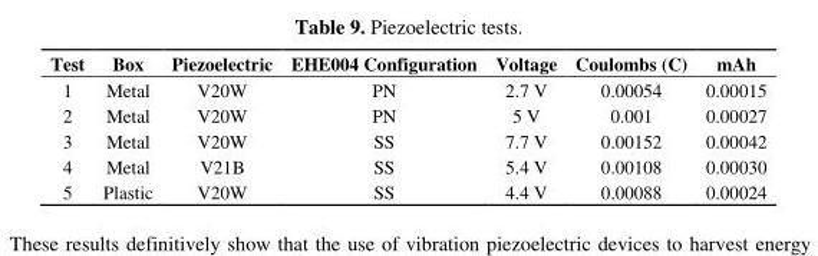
<table><thead><tr><td>Test</td><td>Box</td><td>Piezoelectric</td><td>EHE004 Configuration</td><td>Voltage</td><td>Coulombs (C)</td><td>mAh</td></tr></thead><tbody><tr><td>1</td><td>Metal</td><td>V20W</td><td>PN</td><td>2.7 V</td><td>0.00054</td><td>0.00015</td></tr><tr><td>2</td><td>Metal</td><td>V20W</td><td>PN</td><td>5 V</td><td>0.001</td><td>0.00027</td></tr><tr><td>3</td><td>Metal</td><td>V20W</td><td>SS</td><td>7.7 V</td><td>0.00152</td><td>0.00042</td></tr><tr><td>4</td><td>Metal</td><td>V21B</td><td>SS</td><td>5.4 V</td><td>0.00108</td><td>0.00030</td></tr><tr><td>5</td><td>Plastic</td><td>V20W</td><td>SS</td><td>4.4 V</td><td>0.00088</td><td>0.00024</td></tr></tbody></table>